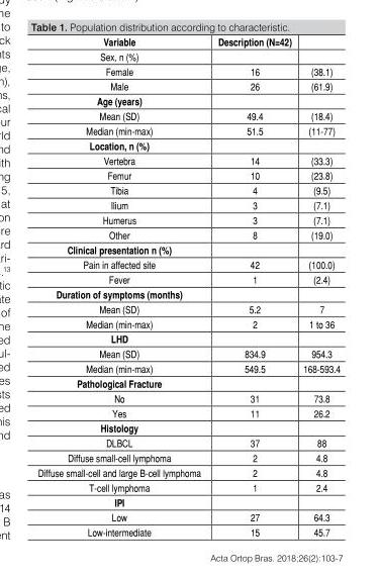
<table><thead><tr><td>Variable</td><td>Description (N=42)</td><td></td></tr></thead><tbody><tr><td colspan="3">Sex, n (%)</td></tr><tr><td>Female</td><td>16</td><td>(38.1)</td></tr><tr><td>Male</td><td>26</td><td>(61.9)</td></tr><tr><td colspan="3">Age (years)</td></tr><tr><td>Mean (SD)</td><td>49.4</td><td>(18.4)</td></tr><tr><td>Median (min-max)</td><td>51.5</td><td>(11-77)</td></tr><tr><td colspan="3">Location, n (%)</td></tr><tr><td>Vertebra</td><td>14</td><td>(33.3)</td></tr><tr><td>Femur</td><td>10</td><td>(23.8)</td></tr><tr><td>Tibia</td><td>4</td><td>(9.5)</td></tr><tr><td>Ilium</td><td>3</td><td>(7.1)</td></tr><tr><td>Humerus</td><td>3</td><td>(7.1)</td></tr><tr><td>Other</td><td>8</td><td>(19.0)</td></tr><tr><td colspan="3">Clinical presentation n (%)</td></tr><tr><td>Pain in affected site</td><td>42</td><td>(100.0)</td></tr><tr><td>Fever</td><td>1</td><td>(2.4)</td></tr><tr><td colspan="3">Duration of symptoms (months)</td></tr><tr><td>Mean (SD)</td><td>5.2</td><td>7</td></tr><tr><td>Median (min-max)</td><td>2</td><td>1 to 36</td></tr><tr><td colspan="3">LHD</td></tr><tr><td>Mean (SD)</td><td>834.9</td><td>954.3</td></tr><tr><td>Median (min-max)</td><td>549.5</td><td>168-593.4</td></tr><tr><td colspan="3">Pathological Fracture</td></tr><tr><td>No</td><td>31</td><td>73.8</td></tr><tr><td>Yes</td><td>11</td><td>26.2</td></tr><tr><td colspan="3">Histology</td></tr><tr><td>DLBCL</td><td>37</td><td>88</td></tr><tr><td>Diffuse small-cell lymphoma</td><td>2</td><td>4.8</td></tr><tr><td>Diffuse small-cell and large B-cell lymphoma</td><td>2</td><td>4.8</td></tr><tr><td>T-cell lymphoma</td><td>1</td><td>2.4</td></tr><tr><td colspan="3">IPI</td></tr><tr><td>Low</td><td>27</td><td>64.3</td></tr><tr><td>Low-intermediate</td><td>15</td><td>45.7</td></tr></tbody></table>